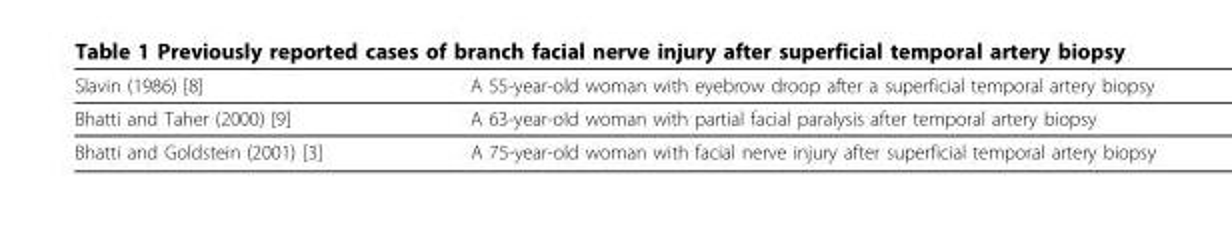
<table><thead><tr><td>Slavin (1986) [8]</td><td>A 55-year-old woman with eyebrow droop after a superficial temporal artery biopsy</td></tr></thead><tbody><tr><td>Bhatti and Taher (2000) [9]</td><td>A 63-year-old woman with partial facial paralysis after temporal artery biopsy</td></tr><tr><td>Bhatti and Goldstein (2001) [3]</td><td>A 75-year-old woman with facial nerve injury after superficial temporal artery biopsy</td></tr></tbody></table>